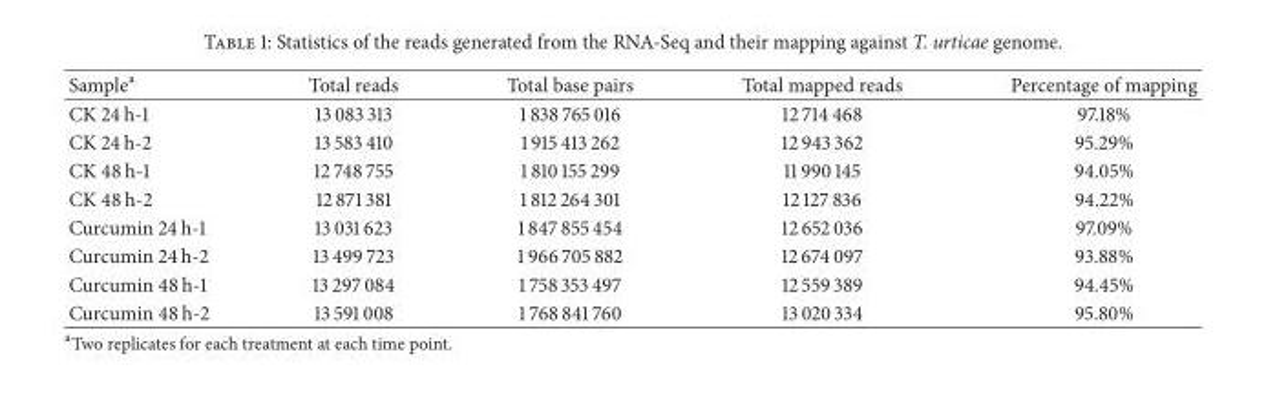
<table><thead><tr><td>Sample<sup>a</sup></td><td>Total reads</td><td>Total base pairs</td><td>Total mapped reads</td><td>Percentage of mapping</td></tr></thead><tbody><tr><td>CK 24 h-1</td><td>13 083 313</td><td>1 838 765 016</td><td>12 714 468</td><td>97.18%</td></tr><tr><td>CK 24 h-2</td><td>13 583 410</td><td>1 915 413 262</td><td>12 943 362</td><td>95.29%</td></tr><tr><td>CK 48 h-1</td><td>12 748 755</td><td>1 810 155 299</td><td>11 990 145</td><td>94.05%</td></tr><tr><td>CK 48 h-2</td><td>12 871 381</td><td>1 812 264 301</td><td>12 127 836</td><td>94.22%</td></tr><tr><td>Curcumin 24 h-1</td><td>13 031 623</td><td>1 847 855 454</td><td>12 652 036</td><td>97.09%</td></tr><tr><td>Curcumin 24 h-2</td><td>13 499 723</td><td>1 966 705 882</td><td>12 674 097</td><td>93.88%</td></tr><tr><td>Curcumin 48 h-1</td><td>13 297 084</td><td>1 758 353 497</td><td>12 559 389</td><td>94.45%</td></tr><tr><td>Curcumin 48 h-2</td><td>13 591 008</td><td>1 768 841 760</td><td>13 020 334</td><td>95.80%</td></tr></tbody></table>